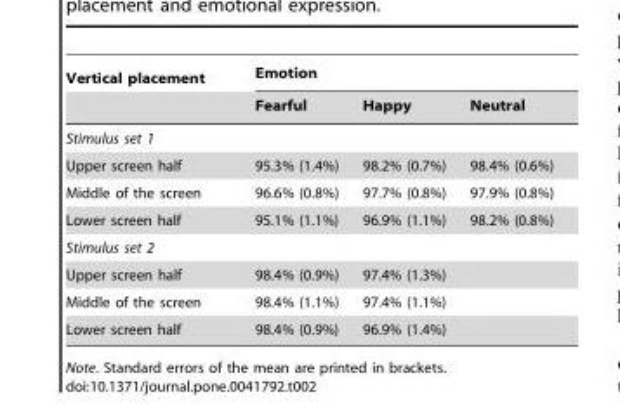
<table><thead><tr><td rowspan="2">Vertical placement</td><td colspan="3">Emotion</td></tr><tr><td>Fearful</td><td>Happy</td><td>Neutral</td></tr></thead><tbody><tr><td colspan="4">Stimulus set 1</td></tr><tr><td>Upper screen half</td><td>95.3% (1.4%)</td><td>98.2% (0.7%)</td><td>98.4% (0.6%)</td></tr><tr><td>Middle of the screen</td><td>96.6% (0.8%)</td><td>97.7% (0.8%)</td><td>97.9% (0.8%)</td></tr><tr><td>Lower screen half</td><td>95.1% (1.1%)</td><td>96.9% (1.1%)</td><td>98.2% (0.8%)</td></tr><tr><td colspan="4">Stimulus set 2</td></tr><tr><td>Upper screen half</td><td>98.4% (0.9%)</td><td>97.4% (1.3%)</td><td></td></tr><tr><td>Middle of the screen</td><td>98.4% (1.1%)</td><td>97.4% (1.1%)</td><td></td></tr><tr><td>Lower screen half</td><td>98.4% (0.9%)</td><td>96.9% (1.4%)</td><td></td></tr></tbody></table>